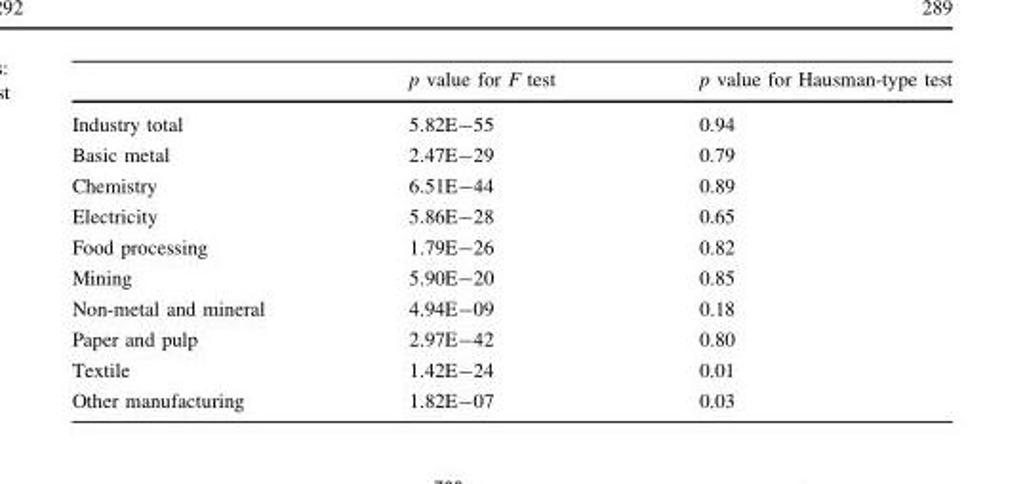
<table><thead><tr><td></td><td>p value for F test</td><td>p value for Hausman-type test</td></tr></thead><tbody><tr><td>Industry total</td><td>5.82E-55</td><td>0.94</td></tr><tr><td>Basic metal</td><td>2.47E-29</td><td>0.79</td></tr><tr><td>Chemistry</td><td>6.51E-44</td><td>0.89</td></tr><tr><td>Electricity</td><td>5.86E-28</td><td>0.65</td></tr><tr><td>Food processing</td><td>1.79E-26</td><td>0.82</td></tr><tr><td>Mining</td><td>5.90E-20</td><td>0.85</td></tr><tr><td>Non-metal and mineral</td><td>4.94E-09</td><td>0.18</td></tr><tr><td>Paper and pulp</td><td>2.97E-42</td><td>0.80</td></tr><tr><td>Textile</td><td>1.42E-24</td><td>0.01</td></tr><tr><td>Other manufacturing</td><td>1.82E-07</td><td>0.03</td></tr></tbody></table>